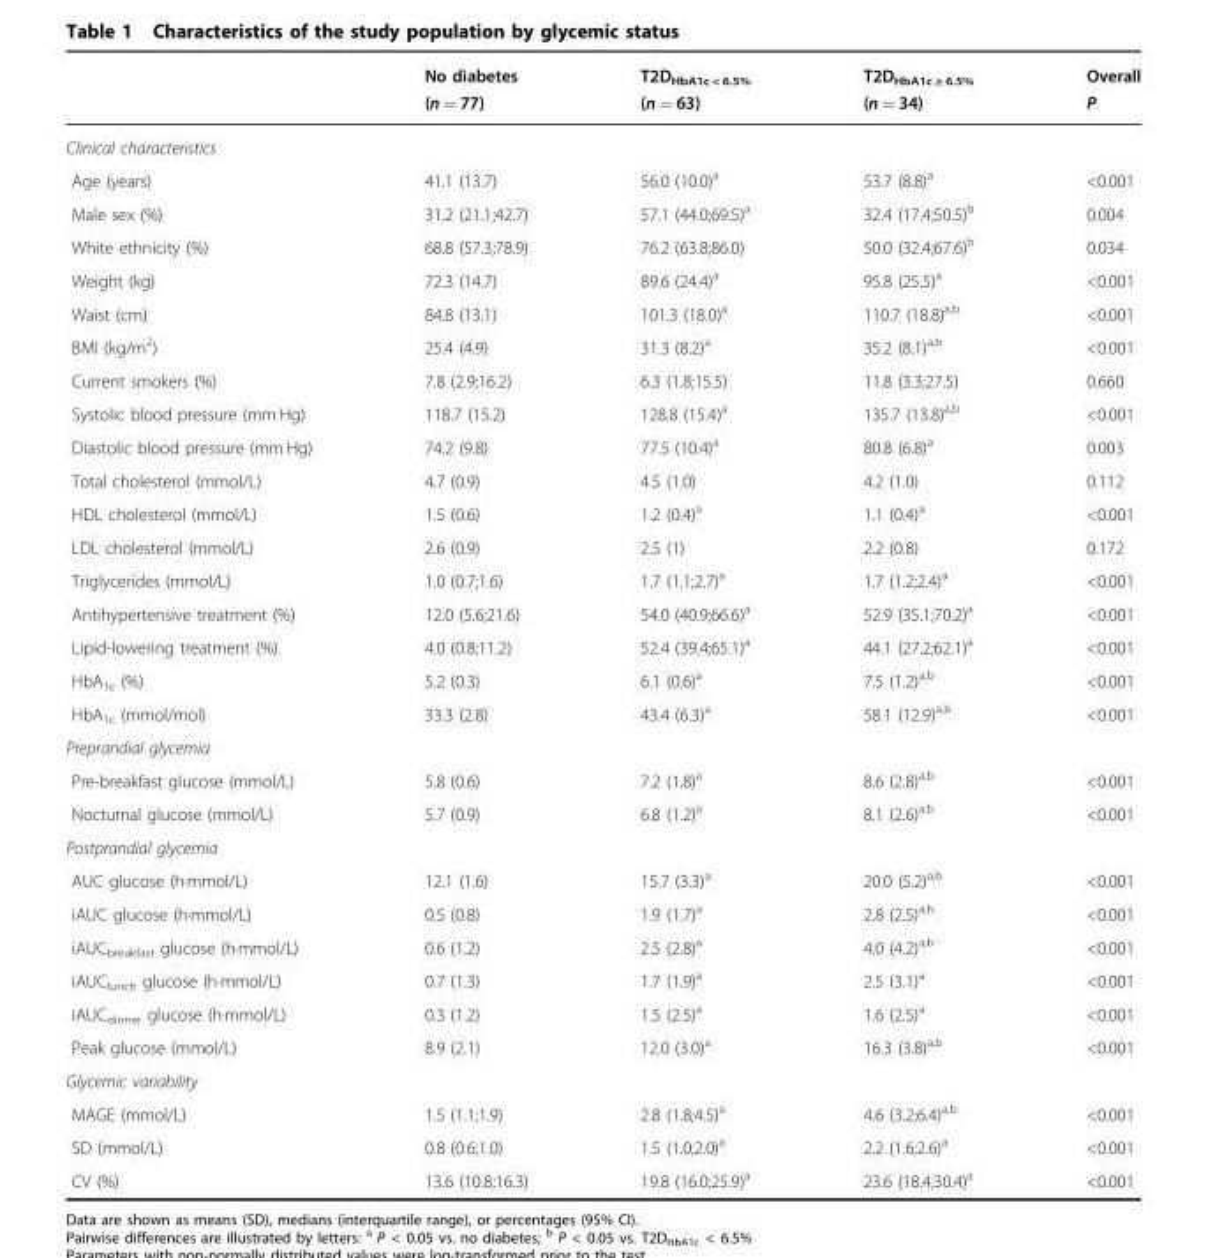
<table><thead><tr><td></td><td>No diabetes (n = 77)</td><td>T2D<sub>HbA1c &lt; 6.5%</sub> (n = 63)</td><td>T2D<sub>HbA1c ≥ 6.5%</sub> (n = 34)</td><td>Overall P</td></tr></thead><tbody><tr><td colspan="5">Clinical characteristics</td></tr><tr><td>Age (years)</td><td>41.1 (13.7)</td><td>56.0 (10.0)<sup>a</sup></td><td>53.7 (8.8)<sup>a</sup></td><td>&lt;0.001</td></tr><tr><td>Male sex (%)</td><td>31.2 (21.1;42.7)</td><td>57.1 (44.0;69.5)<sup>a</sup></td><td>32.4 (17.4;50.5)<sup>b</sup></td><td>0.004</td></tr><tr><td>White ethnicity (%)</td><td>68.8 (57.3;78.9)</td><td>76.2 (63.8;86.0)</td><td>50.0 (32.4;67.6)<sup>b</sup></td><td>0.034</td></tr><tr><td>Weight (kg)</td><td>72.3 (14.7)</td><td>89.6 (24.4)<sup>a</sup></td><td>95.8 (25.5)<sup>a</sup></td><td>&lt;0.001</td></tr><tr><td>Waist (cm)</td><td>84.8 (13.1)</td><td>101.3 (18.0)<sup>a</sup></td><td>110.7 (18.8)<sup>a,b</sup></td><td>&lt;0.001</td></tr><tr><td>BMI (kg/m<sup>2</sup>)</td><td>25.4 (4.9)</td><td>31.3 (8.2)<sup>a</sup></td><td>35.2 (8.1)<sup>a,b</sup></td><td>&lt;0.001</td></tr><tr><td>Current smokers (%)</td><td>7.8 (2.9;16.2)</td><td>6.3 (1.8;15.5)</td><td>11.8 (3.3;27.5)</td><td>0.660</td></tr><tr><td>Systolic blood pressure (mm Hg)</td><td>118.7 (15.2)</td><td>128.8 (15.4)<sup>a</sup></td><td>135.7 (13.8)<sup>a,b</sup></td><td>&lt;0.001</td></tr><tr><td>Diastolic blood pressure (mm Hg)</td><td>74.2 (9.8)</td><td>77.5 (10.4)<sup>a</sup></td><td>80.8 (6.8)<sup>a</sup></td><td>0.003</td></tr><tr><td>Total cholesterol (mmol/L)</td><td>4.7 (0.9)</td><td>4.5 (1.0)</td><td>4.2 (1.0)</td><td>0.112</td></tr><tr><td>HDL cholesterol (mmol/L)</td><td>1.5 (0.6)</td><td>1.2 (0.4)<sup>a</sup></td><td>1.1 (0.4)<sup>a</sup></td><td>&lt;0.001</td></tr><tr><td>LDL cholesterol (mmol/L)</td><td>2.6 (0.9)</td><td>2.5 (1)</td><td>2.2 (0.8)</td><td>0.172</td></tr><tr><td>Triglycerides (mmol/L)</td><td>1.0 (0.7;1.6)</td><td>1.7 (1.1;2.7)<sup>a</sup></td><td>1.7 (1.2;2.4)<sup>a</sup></td><td>&lt;0.001</td></tr><tr><td>Antihypertensive treatment (%)</td><td>12.0 (5.6;21.6)</td><td>54.0 (40.9;66.6)<sup>a</sup></td><td>52.9 (35.1;70.2)<sup>a</sup></td><td>&lt;0.001</td></tr><tr><td>Lipid-lowering treatment (%)</td><td>4.0 (0.8;11.2)</td><td>52.4 (39.4;65.1)<sup>a</sup></td><td>44.1 (27.2;62.1)<sup>a</sup></td><td>&lt;0.001</td></tr><tr><td>HbA<sub>1c</sub> (%)</td><td>5.2 (0.3)</td><td>6.1 (0.6)<sup>a</sup></td><td>7.5 (1.2)<sup>a,b</sup></td><td>&lt;0.001</td></tr><tr><td>HbA<sub>1c</sub> (mmol/mol)</td><td>33.3 (2.8)</td><td>43.4 (6.3)<sup>a</sup></td><td>58.1 (12.9)<sup>a,b</sup></td><td>&lt;0.001</td></tr><tr><td colspan="5">Preprandial glycemia</td></tr><tr><td>Pre-breakfast glucose (mmol/L)</td><td>5.8 (0.6)</td><td>7.2 (1.8)<sup>a</sup></td><td>8.6 (2.8)<sup>a,b</sup></td><td>&lt;0.001</td></tr><tr><td>Nocturnal glucose (mmol/L)</td><td>5.7 (0.9)</td><td>6.8 (1.2)<sup>a</sup></td><td>8.1 (2.6)<sup>a,b</sup></td><td>&lt;0.001</td></tr><tr><td colspan="5">Postprandial glycemia</td></tr><tr><td>AUC glucose (h·mmol/L)</td><td>12.1 (1.6)</td><td>15.7 (3.3)<sup>a</sup></td><td>20.0 (5.2)<sup>a,b</sup></td><td>&lt;0.001</td></tr><tr><td>iAUC glucose (h·mmol/L)</td><td>0.5 (0.8)</td><td>1.9 (1.7)<sup>a</sup></td><td>2.8 (2.5)<sup>a,b</sup></td><td>&lt;0.001</td></tr><tr><td>iAUC<sub>breakfast</sub> glucose (h·mmol/L)</td><td>0.6 (1.2)</td><td>2.5 (2.8)<sup>a</sup></td><td>4.0 (4.2)<sup>a,b</sup></td><td>&lt;0.001</td></tr><tr><td>iAUC<sub>lunch</sub> glucose (h·mmol/L)</td><td>0.7 (1.3)</td><td>1.7 (1.9)<sup>a</sup></td><td>2.5 (3.1)<sup>a</sup></td><td>&lt;0.001</td></tr><tr><td>iAUC<sub>dinner</sub> glucose (h·mmol/L)</td><td>0.3 (1.2)</td><td>1.5 (2.5)<sup>a</sup></td><td>1.6 (2.5)<sup>a</sup></td><td>&lt;0.001</td></tr><tr><td>Peak glucose (mmol/L)</td><td>8.9 (2.1)</td><td>12.0 (3.0)<sup>a</sup></td><td>16.3 (3.8)<sup>a,b</sup></td><td>&lt;0.001</td></tr><tr><td colspan="5">Glycemic variability</td></tr><tr><td>MAGE (mmol/L)</td><td>1.5 (1.1;1.9)</td><td>2.8 (1.8;4.5)<sup>a</sup></td><td>4.6 (3.2;6.4)<sup>a,b</sup></td><td>&lt;0.001</td></tr><tr><td>SD (mmol/L)</td><td>0.8 (0.6;1.0)</td><td>1.5 (1.0;2.0)<sup>a</sup></td><td>2.2 (1.6;2.6)<sup>a</sup></td><td>&lt;0.001</td></tr><tr><td>CV (%)</td><td>13.6 (10.8;16.3)</td><td>19.8 (16.0;25.9)<sup>a</sup></td><td>23.6 (18.4;30.4)<sup>a</sup></td><td>&lt;0.001</td></tr></tbody></table>